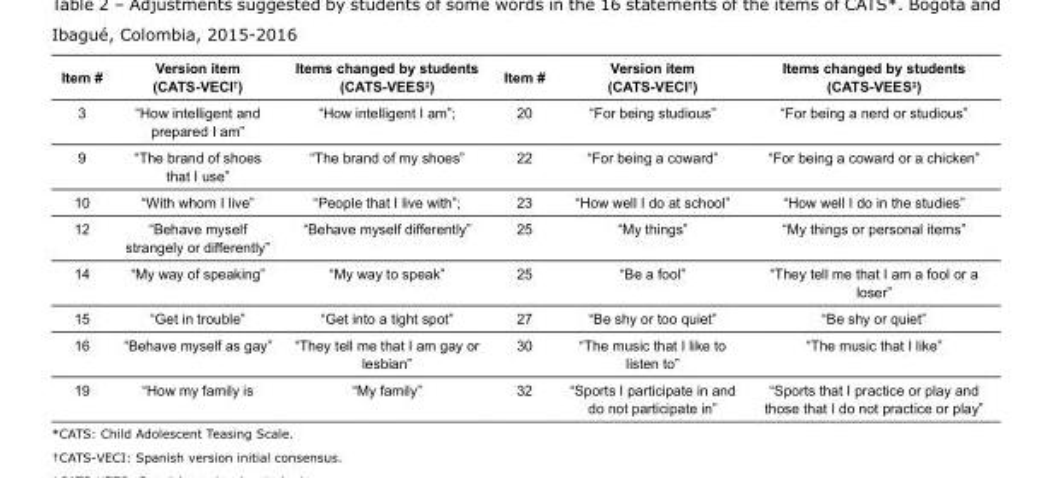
<table><tbody><tr><td>Item #</td><td>Version item (CATS-VECI<sup>†</sup>)</td><td>Items changed by students (CATS-VEES<sup>‡</sup>)</td><td>Item #</td><td>Version item (CATS-VECI<sup>†</sup>)</td><td>Items changed by students (CATS-VEES<sup>‡</sup>)</td></tr><tr><td>3</td><td>“How intelligent and prepared I am”</td><td>“How intelligent I am”;</td><td>20</td><td>“For being studious”</td><td>“For being a nerd or studious”</td></tr><tr><td>9</td><td>“The brand of shoes that I use”</td><td>“The brand of my shoes”</td><td>22</td><td>“For being a coward”</td><td>“For being a coward or a chicken”</td></tr><tr><td>10</td><td>“With whom I live”</td><td>“People that I live with”;</td><td>23</td><td>“How well I do at school”</td><td>“How well I do in the studies”</td></tr><tr><td>12</td><td>“Behave myself strangely or differently”</td><td>“Behave myself differently”</td><td>25</td><td>“My things”</td><td>“My things or personal items”</td></tr><tr><td>14</td><td>“My way of speaking”</td><td>“My way to speak”</td><td>25</td><td>“Be a fool”</td><td>“They tell me that I am a fool or a loser”</td></tr><tr><td>15</td><td>“Get in trouble”</td><td>“Get into a tight spot”</td><td>27</td><td>“Be shy or too quiet”</td><td>“Be shy or quiet”</td></tr><tr><td>16</td><td>“Behave myself as gay”</td><td>“They tell me that I am gay or lesbian”</td><td>30</td><td>“The music that I like to listen to”</td><td>“The music that I like”</td></tr><tr><td>19</td><td>“How my family is</td><td>“My family”</td><td>32</td><td>“Sports I participate in and do not participate in”</td><td>“Sports that I practice or play and those that I do not practice or play”</td></tr></tbody></table>